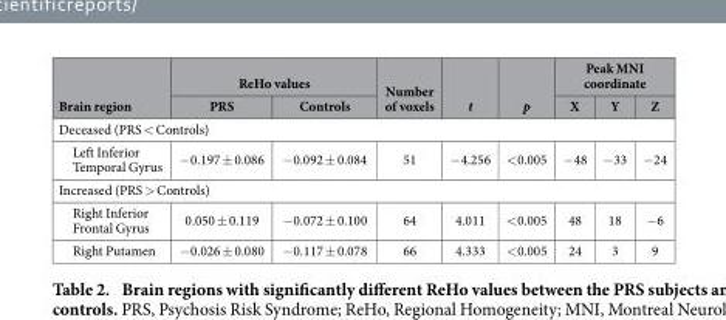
<table><thead><tr><td rowspan="2">Brain region</td><td colspan="2">ReHo values</td><td rowspan="2">Number of voxels</td><td rowspan="2">t</td><td rowspan="2">p</td><td colspan="3">Peak MNI coordinate</td></tr><tr><td>PRS</td><td>Controls</td><td>X</td><td>Y</td><td>Z</td></tr></thead><tbody><tr><td colspan="9">Deceased (PRS &lt; Controls)</td></tr><tr><td>Left Inferior Temporal Gyrus</td><td>− 0.197 ± 0.086</td><td>− 0.092 ± 0.084</td><td>51</td><td>− 4.256</td><td>&lt; 0.005</td><td>− 48</td><td>− 33</td><td>− 24</td></tr><tr><td colspan="9">Increased (PRS &gt; Controls)</td></tr><tr><td>Right Inferior Frontal Gyrus</td><td>0.050 ± 0.119</td><td>− 0.072 ± 0.100</td><td>64</td><td>4.011</td><td>&lt; 0.005</td><td>48</td><td>18</td><td>− 6</td></tr><tr><td>Right Putamen</td><td>− 0.026 ± 0.080</td><td>− 0.117 ± 0.078</td><td>66</td><td>4.333</td><td>&lt; 0.005</td><td>24</td><td>3</td><td>9</td></tr></tbody></table>